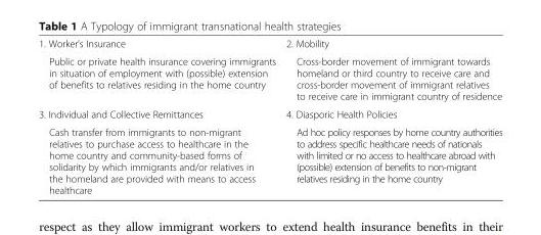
<table><tbody><tr><td>1. Worker’s Insurance</td><td>2. Mobility</td></tr><tr><td>Public or private health insurance covering immigrants in situation of employment with (possible) extension of benefits to relatives residing in the home country</td><td>Cross-border movement of immigrant towards homeland or third country to receive care and cross-border movement of immigrant relatives to receive care in immigrant country of residence</td></tr><tr><td>3. Individual and Collective Remittances</td><td>4. Diasporic Health Policies</td></tr><tr><td>Cash transfer from immigrants to non-migrant relatives to purchase access to healthcare in the home country and community-based forms of solidarity by which immigrants and/or relatives in the homeland are provided with means to access healthcare</td><td>Ad hoc policy responses by home country authorities to address specific healthcare needs of nationals with limited or no access to healthcare abroad with (possible) extension of benefits to non-migrant relatives residing in the home country</td></tr></tbody></table>